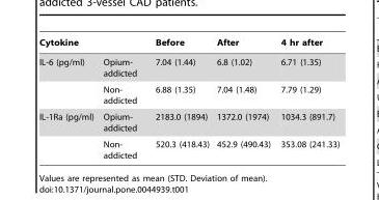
<table><thead><tr><td>Cytokine</td><td></td><td>Before</td><td>After</td><td>4 hr after</td></tr></thead><tbody><tr><td rowspan="2">IL-6 (pg/ml)</td><td>Opium- addicted</td><td>7.04 (1.44)</td><td>6.8 (1.02)</td><td>6.71 (1.35)</td></tr><tr><td>Non- addicted</td><td>6.88 (1.35)</td><td>7.04 (1.48)</td><td>7.79 (1.29)</td></tr><tr><td rowspan="2">IL-1Ra (pg/ml)</td><td>Opium- addicted</td><td>2183.0 (1894)</td><td>1372.0 (1974)</td><td>1034.3 (891.7)</td></tr><tr><td>Non- addicted</td><td>520.3 (418.43)</td><td>452.9 (490.43)</td><td>353.08 (241.33)</td></tr></tbody></table>